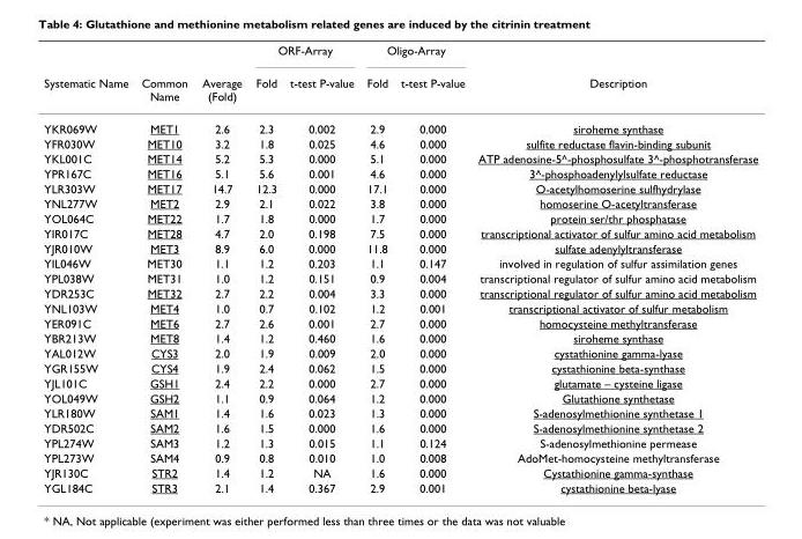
<table><thead><tr><td rowspan="2">Systematic Name</td><td rowspan="2">Common Name</td><td rowspan="2">Average (Fold)</td><td colspan="2">ORF-Array</td><td colspan="2">Oligo-Array</td><td rowspan="2">Description</td></tr><tr><td>Fold</td><td>t-test P-value</td><td>Fold</td><td>t-test P-value</td></tr></thead><tbody><tr><td>YKR069W</td><td>MET1</td><td>2.6</td><td>2.3</td><td>0.002</td><td>2.9</td><td>0.000</td><td>siroheme synthase</td></tr><tr><td>YFR030W</td><td>MET10</td><td>3.2</td><td>1.8</td><td>0.025</td><td>4.6</td><td>0.000</td><td>sulfite reductase flavin-binding subunit</td></tr><tr><td>YKL001C</td><td>MET14</td><td>5.2</td><td>5.3</td><td>0.000</td><td>5.1</td><td>0.000</td><td>ATP adenosine-5^-phosphosulfate 3^-phosphotransferase</td></tr><tr><td>YPR167C</td><td>MET16</td><td>5.1</td><td>5.6</td><td>0.001</td><td>4.6</td><td>0.000</td><td>3^-phosphoadenylylsulfate reductase</td></tr><tr><td>YLR303W</td><td>MET17</td><td>14.7</td><td>12.3</td><td>0.000</td><td>17.1</td><td>0.000</td><td>O-acetylhomoserine sulfhydrylase</td></tr><tr><td>YNL277W</td><td>MET2</td><td>2.9</td><td>2.1</td><td>0.022</td><td>3.8</td><td>0.000</td><td>homoserine O-acetyltransferase</td></tr><tr><td>YOL064C</td><td>MET22</td><td>1.7</td><td>1.8</td><td>0.000</td><td>1.7</td><td>0.000</td><td>protein ser/thr phosphatase</td></tr><tr><td>YIR017C</td><td>MET28</td><td>4.7</td><td>2.0</td><td>0.198</td><td>7.5</td><td>0.000</td><td>transcriptional activator of sulfur amino acid metabolism</td></tr><tr><td>YJR010W</td><td>MET3</td><td>8.9</td><td>6.0</td><td>0.000</td><td>11.8</td><td>0.000</td><td>sulfate adenylyltransferase</td></tr><tr><td>YIL046W</td><td>MET30</td><td>1.1</td><td>1.2</td><td>0.203</td><td>1.1</td><td>0.147</td><td>involved in regulation of sulfur assimilation genes</td></tr><tr><td>YPL038W</td><td>MET31</td><td>1.0</td><td>1.2</td><td>0.151</td><td>0.9</td><td>0.004</td><td>transcriptional regulator of sulfur amino acid metabolism</td></tr><tr><td>YDR253C</td><td>MET32</td><td>2.7</td><td>2.2</td><td>0.004</td><td>3.3</td><td>0.000</td><td>transcriptional regulator of sulfur amino acid metabolism</td></tr><tr><td>YNL103W</td><td>MET4</td><td>1.0</td><td>0.7</td><td>0.102</td><td>1.2</td><td>0.001</td><td>transcriptional activator of sulfur metabolism</td></tr><tr><td>YER091C</td><td>MET6</td><td>2.7</td><td>2.6</td><td>0.001</td><td>2.7</td><td>0.000</td><td>homocysteine methyltransferase</td></tr><tr><td>YBR213W</td><td>MET8</td><td>1.4</td><td>1.2</td><td>0.460</td><td>1.6</td><td>0.000</td><td>siroheme synthase</td></tr><tr><td>YAL012W</td><td>CYS3</td><td>2.0</td><td>1.9</td><td>0.009</td><td>2.0</td><td>0.000</td><td>cystathionine gamma-lyase</td></tr><tr><td>YGR155W</td><td>CYS4</td><td>1.9</td><td>2.4</td><td>0.062</td><td>1.5</td><td>0.000</td><td>cystathionine beta-synthase</td></tr><tr><td>YJL101C</td><td>GSH1</td><td>2.4</td><td>2.2</td><td>0.000</td><td>2.7</td><td>0.000</td><td>glutamate – cysteine ligase</td></tr><tr><td>YOL049W</td><td>GSH2</td><td>1.1</td><td>0.9</td><td>0.064</td><td>1.2</td><td>0.000</td><td>Glutathione synthetase</td></tr><tr><td>YLR180W</td><td>SAM1</td><td>1.4</td><td>1.6</td><td>0.023</td><td>1.3</td><td>0.000</td><td>S-adenosylmethionine synthetase 1</td></tr><tr><td>YDR502C</td><td>SAM2</td><td>1.6</td><td>1.5</td><td>0.000</td><td>1.6</td><td>0.000</td><td>S-adenosylmethionine synthetase 2</td></tr><tr><td>YPL274W</td><td>SAM3</td><td>1.2</td><td>1.3</td><td>0.015</td><td>1.1</td><td>0.124</td><td>S-adenosylmethionine permease</td></tr><tr><td>YPL273W</td><td>SAM4</td><td>0.9</td><td>0.8</td><td>0.010</td><td>1.0</td><td>0.008</td><td>AdoMet-homocysteine methyltransferase</td></tr><tr><td>YJR130C</td><td>STR2</td><td>1.4</td><td>1.2</td><td>NA</td><td>1.6</td><td>0.000</td><td>Cystathionine gamma-synthase</td></tr><tr><td>YGL184C</td><td>STR3</td><td>2.1</td><td>1.4</td><td>0.367</td><td>2.9</td><td>0.001</td><td>cystathionine beta-lyase</td></tr></tbody></table>